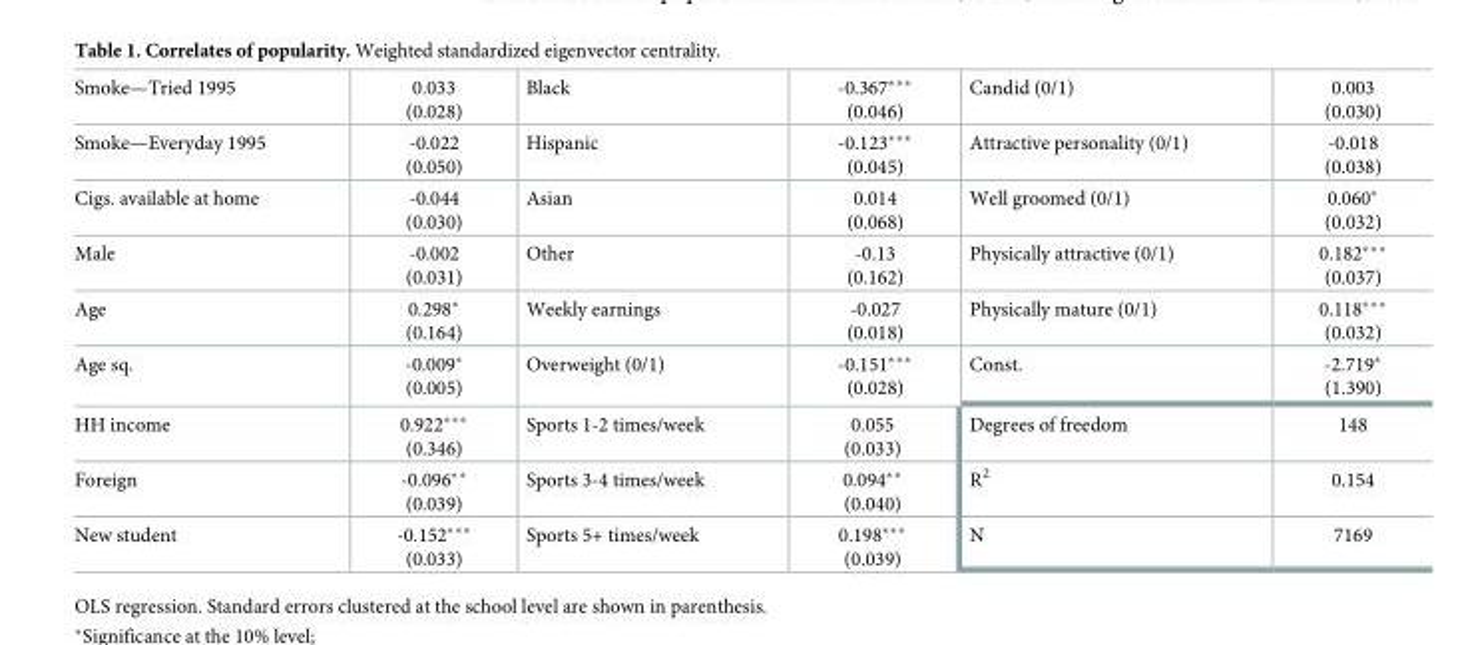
<table><tbody><tr><td>Smoke—Tried 1995</td><td>0.033 (0.028)</td><td>Black</td><td>-0.367*** (0.046)</td><td>Candid (0/1)</td><td>0.003 (0.030)</td></tr><tr><td>Smoke—Everyday 1995</td><td>-0.022 (0.050)</td><td>Hispanic</td><td>-0.123*** (0.045)</td><td>Attractive personality (0/1)</td><td>-0.018 (0.038)</td></tr><tr><td>Cigs. available at home</td><td>-0.044 (0.030)</td><td>Asian</td><td>0.014 (0.068)</td><td>Well groomed (0/1)</td><td>0.060* (0.032)</td></tr><tr><td>Male</td><td>-0.002 (0.031)</td><td>Other</td><td>-0.13 (0.162)</td><td>Physically attractive (0/1)</td><td>0.182*** (0.037)</td></tr><tr><td>Age</td><td>0.298* (0.164)</td><td>Weekly earnings</td><td>-0.027 (0.018)</td><td>Physically mature (0/1)</td><td>0.118*** (0.032)</td></tr><tr><td>Age sq.</td><td>-0.009* (0.005)</td><td>Overweight (0/1)</td><td>-0.151*** (0.028)</td><td>Const.</td><td>-2.719* (1.390)</td></tr><tr><td>HH income</td><td>0.922*** (0.346)</td><td>Sports 1-2 times/week</td><td>0.055 (0.033)</td><td>Degrees of freedom</td><td>148</td></tr><tr><td>Foreign</td><td>-0.096** (0.039)</td><td>Sports 3-4 times/week</td><td>0.094** (0.040)</td><td>R<sup>2</sup></td><td>0.154</td></tr><tr><td>New student</td><td>-0.152*** (0.033)</td><td>Sports 5+ times/week</td><td>0.198*** (0.039)</td><td>N</td><td>7169</td></tr></tbody></table>